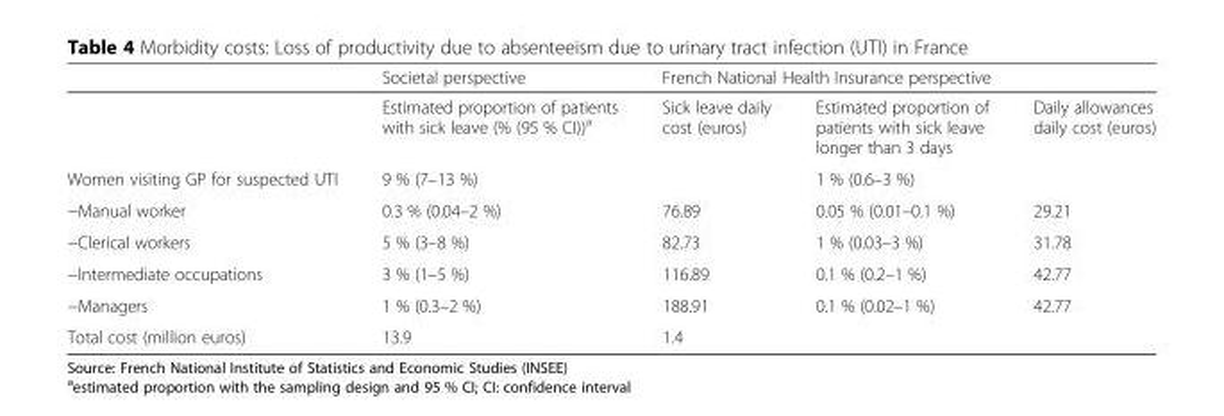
<table><thead><tr><td rowspan="2"></td><td rowspan="2">Societal perspective Estimated proportion of patients with sick leave (% (95 % CI))<sup>a</sup></td><td colspan="3">French National Health Insurance perspective</td></tr><tr><td>Sick leave daily cost (euros)</td><td>Estimated proportion of patients with sick leave longer than 3 days</td><td>Daily allowances daily cost (euros)</td></tr></thead><tbody><tr><td>Women visiting GP for suspected UTI</td><td>9 % (7–13 %)</td><td></td><td>1 % (0.6–3 %)</td><td></td></tr><tr><td>−Manual worker</td><td>0.3 % (0.04–2 %)</td><td>76.89</td><td>0.05 % (0.01–0.1 %)</td><td>29.21</td></tr><tr><td>−Clerical workers</td><td>5 % (3–8 %)</td><td>82.73</td><td>1 % (0.03–3 %)</td><td>31.78</td></tr><tr><td>−Intermediate occupations</td><td>3 % (1–5 %)</td><td>116.89</td><td>0.1 % (0.2–1 %)</td><td>42.77</td></tr><tr><td>−Managers</td><td>1 % (0.3–2 %)</td><td>188.91</td><td>0.1 % (0.02–1 %)</td><td>42.77</td></tr><tr><td>Total cost (million euros)</td><td>13.9</td><td colspan="3">1.4</td></tr></tbody></table>